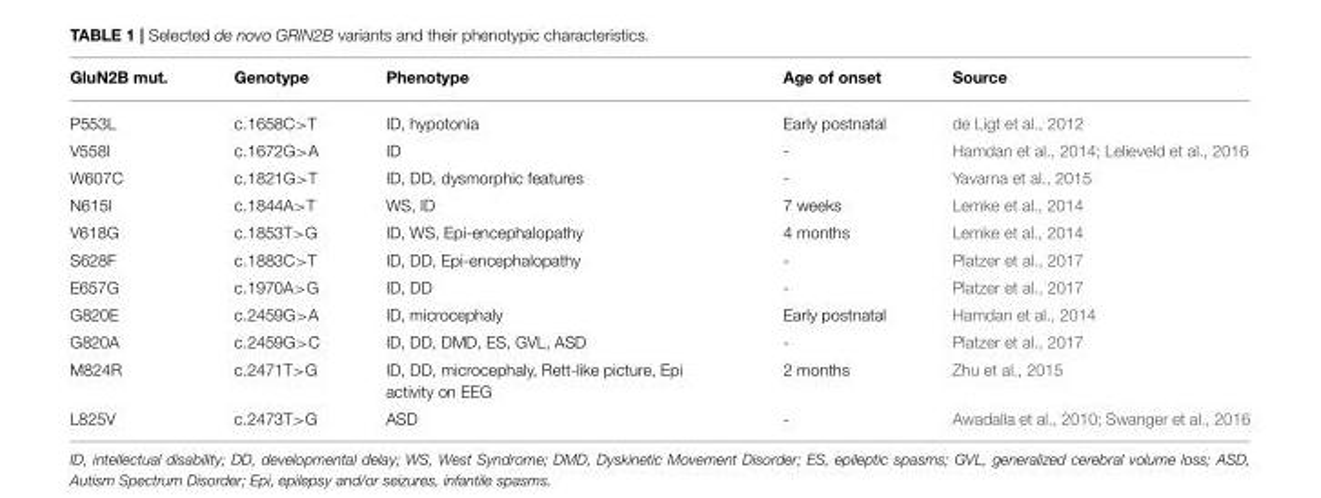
<table><thead><tr><td>GluN2B mut.</td><td>Genotype</td><td>Phenotype</td><td>Age of onset</td><td>Source</td></tr></thead><tbody><tr><td>P553L</td><td>c.1658C&gt;T</td><td>ID, hypotonia</td><td>Early postnatal</td><td>de Ligt et al., 2012</td></tr><tr><td>V558I</td><td>c.1672G&gt;A</td><td>ID</td><td>-</td><td>Hamdan et al., 2014; Lelieveld et al., 2016</td></tr><tr><td>W607C</td><td>c.1821G&gt;T</td><td>ID, DD, dysmorphic features</td><td>-</td><td>Yavarna et al., 2015</td></tr><tr><td>N615I</td><td>c.1844A&gt;T</td><td>WS, ID</td><td>7 weeks</td><td>Lemke et al., 2014</td></tr><tr><td>V618G</td><td>c.1853T&gt;G</td><td>ID, WS, Epi-encephalopathy</td><td>4 months</td><td>Lemke et al., 2014</td></tr><tr><td>S628F</td><td>c.1883C&gt;T</td><td>ID, DD, Epi-encephalopathy</td><td>-</td><td>Platzer et al., 2017</td></tr><tr><td>E657G</td><td>c.1970A&gt;G</td><td>ID, DD</td><td>-</td><td>Platzer et al., 2017</td></tr><tr><td>G820E</td><td>c.2459G&gt;A</td><td>ID, microcephaly</td><td>Early postnatal</td><td>Hamdan et al., 2014</td></tr><tr><td>G820A</td><td>c.2459G&gt;C</td><td>ID, DD, DMD, ES, GVL, ASD</td><td>-</td><td>Platzer et al., 2017</td></tr><tr><td>M824R</td><td>c.2471T&gt;G</td><td>ID, DD, microcephaly, Rett-like picture, Epi activity on EEG</td><td>2 months</td><td>Zhu et al., 2015</td></tr><tr><td>L825V</td><td>c.2473T&gt;G</td><td>ASD</td><td>-</td><td>Awadalla et al., 2010; Swanger et al., 2016</td></tr></tbody></table>